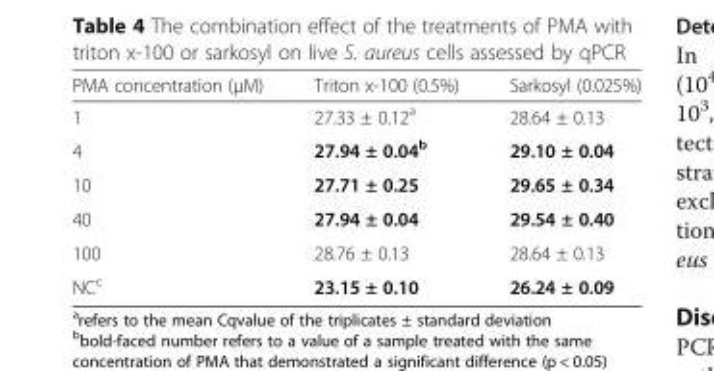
<table><thead><tr><td>PMA concentration (μM)</td><td>Triton x-100 (0.5%)</td><td>Sarkosyl (0.025%)</td></tr></thead><tbody><tr><td>1</td><td>27.33 ± 0.12<sup>a</sup></td><td>28.64 ± 0.13</td></tr><tr><td>4</td><td>27.94 ± 0.04<sup>b</sup></td><td>29.10 ± 0.04</td></tr><tr><td>10</td><td>27.71 ± 0.25</td><td>29.65 ± 0.34</td></tr><tr><td>40</td><td>27.94 ± 0.04</td><td>29.54 ± 0.40</td></tr><tr><td>100</td><td>28.76 ± 0.13</td><td>28.64 ± 0.13</td></tr><tr><td>NC<sup>c</sup></td><td>23.15 ± 0.10</td><td>26.24 ± 0.09</td></tr></tbody></table>